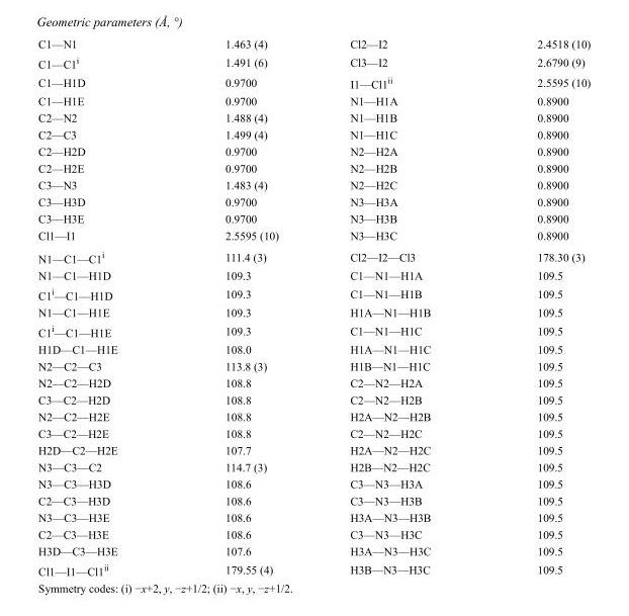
<table><tbody><tr><td>C1—N1</td><td>1.463 (4)</td><td>Cl2—I2</td><td>2.4518 (10)</td></tr><tr><td>C1—C1<sup>i</sup></td><td>1.491 (6)</td><td>Cl3—I2</td><td>2.6790 (9)</td></tr><tr><td>C1—H1D</td><td>0.9700</td><td>I1—Cl1<sup>ii</sup></td><td>2.5595 (10)</td></tr><tr><td>C1—H1E</td><td>0.9700</td><td>N1—H1A</td><td>0.8900</td></tr><tr><td>C2—N2</td><td>1.488 (4)</td><td>N1—H1B</td><td>0.8900</td></tr><tr><td>C2—C3</td><td>1.499 (4)</td><td>N1—H1C</td><td>0.8900</td></tr><tr><td>C2—H2D</td><td>0.9700</td><td>N2—H2A</td><td>0.8900</td></tr><tr><td>C2—H2E</td><td>0.9700</td><td>N2—H2B</td><td>0.8900</td></tr><tr><td>C3—N3</td><td>1.483 (4)</td><td>N2—H2C</td><td>0.8900</td></tr><tr><td>C3—H3D</td><td>0.9700</td><td>N3—H3A</td><td>0.8900</td></tr><tr><td>C3—H3E</td><td>0.9700</td><td>N3—H3B</td><td>0.8900</td></tr><tr><td>Cl1—I1</td><td>2.5595 (10)</td><td>N3—H3C</td><td>0.8900</td></tr><tr><td>N1—C1—C1<sup>i</sup></td><td>111.4 (3)</td><td>Cl2—I2—Cl3</td><td>178.30 (3)</td></tr><tr><td>N1—C1—H1D</td><td>109.3</td><td>C1—N1—H1A</td><td>109.5</td></tr><tr><td>C1<sup>i</sup>—C1—H1D</td><td>109.3</td><td>C1—N1—H1B</td><td>109.5</td></tr><tr><td>N1—C1—H1E</td><td>109.3</td><td>H1A—N1—H1B</td><td>109.5</td></tr><tr><td>C1<sup>i</sup>—C1—H1E</td><td>109.3</td><td>C1—N1—H1C</td><td>109.5</td></tr><tr><td>H1D—C1—H1E</td><td>108.0</td><td>H1A—N1—H1C</td><td>109.5</td></tr><tr><td>N2—C2—C3</td><td>113.8 (3)</td><td>H1B—N1—H1C</td><td>109.5</td></tr><tr><td>N2—C2—H2D</td><td>108.8</td><td>C2—N2—H2A</td><td>109.5</td></tr><tr><td>C3—C2—H2D</td><td>108.8</td><td>C2—N2—H2B</td><td>109.5</td></tr><tr><td>N2—C2—H2E</td><td>108.8</td><td>H2A—N2—H2B</td><td>109.5</td></tr><tr><td>C3—C2—H2E</td><td>108.8</td><td>C2—N2—H2C</td><td>109.5</td></tr><tr><td>H2D—C2—H2E</td><td>107.7</td><td>H2A—N2—H2C</td><td>109.5</td></tr><tr><td>N3—C3—C2</td><td>114.7 (3)</td><td>H2B—N2—H2C</td><td>109.5</td></tr><tr><td>N3—C3—H3D</td><td>108.6</td><td>C3—N3—H3A</td><td>109.5</td></tr><tr><td>C2—C3—H3D</td><td>108.6</td><td>C3—N3—H3B</td><td>109.5</td></tr><tr><td>N3—C3—H3E</td><td>108.6</td><td>H3A—N3—H3B</td><td>109.5</td></tr><tr><td>C2—C3—H3E</td><td>108.6</td><td>C3—N3—H3C</td><td>109.5</td></tr><tr><td>H3D—C3—H3E</td><td>107.6</td><td>H3A—N3—H3C</td><td>109.5</td></tr><tr><td>Cl1—I1—Cl1<sup>ii</sup></td><td>179.55 (4)</td><td>H3B—N3—H3C</td><td>109.5</td></tr></tbody></table>